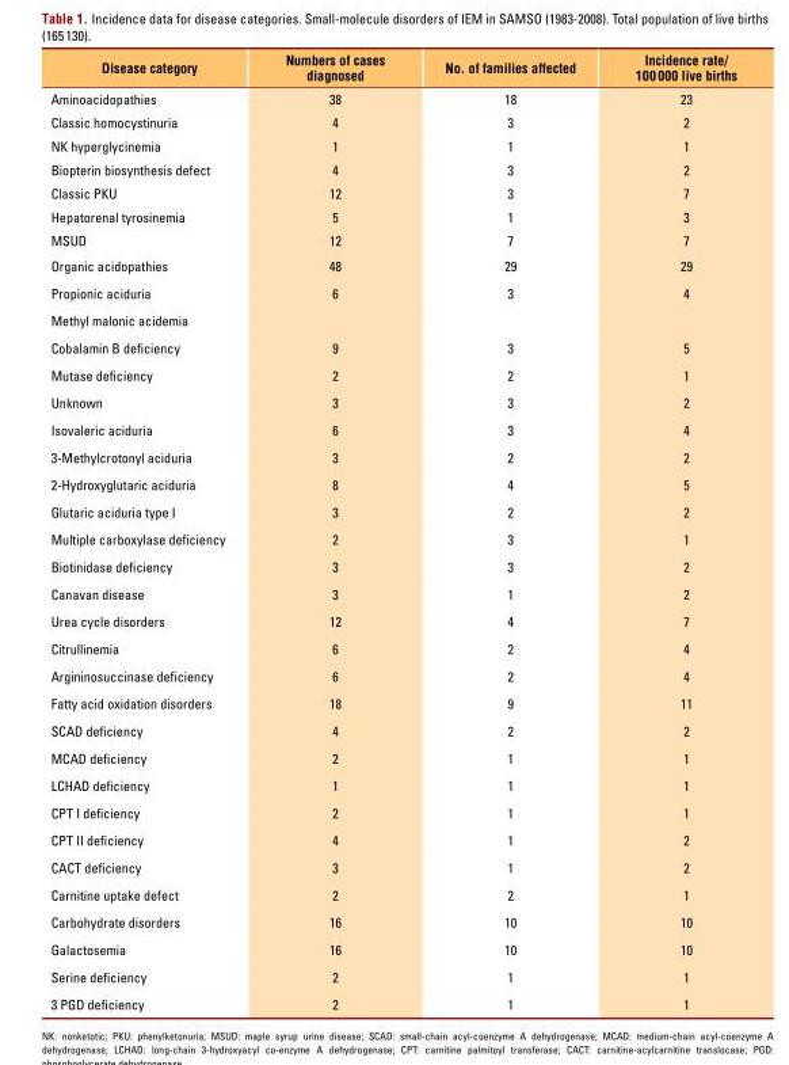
<table><thead><tr><td>Disease category</td><td>Numbers of cases diagnosed</td><td>No. of families affected</td><td>Incidence rate/ 100 000 live births</td></tr></thead><tbody><tr><td>Aminoacidopathies</td><td>38</td><td>18</td><td>23</td></tr><tr><td>Classic homocystinuria</td><td>4</td><td>3</td><td>2</td></tr><tr><td>NK hyperglycinemia</td><td>1</td><td>1</td><td>1</td></tr><tr><td>Biopterin biosynthesis defect</td><td>4</td><td>3</td><td>2</td></tr><tr><td>Classic PKU</td><td>12</td><td>3</td><td>7</td></tr><tr><td>Hepatorenal tyrosinemia</td><td>5</td><td>1</td><td>3</td></tr><tr><td>MSUD</td><td>12</td><td>7</td><td>7</td></tr><tr><td>Organic acidopathies</td><td>48</td><td>29</td><td>29</td></tr><tr><td>Propionic aciduria</td><td>6</td><td>3</td><td>4</td></tr><tr><td colspan="4">Methyl malonic acidemia</td></tr><tr><td>Cobalamin B deficiency</td><td>9</td><td>3</td><td>5</td></tr><tr><td>Mutase deficiency</td><td>2</td><td>2</td><td>1</td></tr><tr><td>Unknown</td><td>3</td><td>3</td><td>2</td></tr><tr><td>Isovaleric aciduria</td><td>6</td><td>3</td><td>4</td></tr><tr><td>3-Methylcrotonyl aciduria</td><td>3</td><td>2</td><td>2</td></tr><tr><td>2-Hydroxyglutaric aciduria</td><td>8</td><td>4</td><td>5</td></tr><tr><td>Glutaric aciduria type I</td><td>3</td><td>2</td><td>2</td></tr><tr><td>Multiple carboxylase deficiency</td><td>2</td><td>3</td><td>1</td></tr><tr><td>Biotinidase deficiency</td><td>3</td><td>3</td><td>2</td></tr><tr><td>Canavan disease</td><td>3</td><td>1</td><td>2</td></tr><tr><td>Urea cycle disorders</td><td>12</td><td>4</td><td>7</td></tr><tr><td>Citrullinemia</td><td>6</td><td>2</td><td>4</td></tr><tr><td>Argininosuccinase deficiency</td><td>6</td><td>2</td><td>4</td></tr><tr><td>Fatty acid oxidation disorders</td><td>18</td><td>9</td><td>11</td></tr><tr><td>SCAD deficiency</td><td>4</td><td>2</td><td>2</td></tr><tr><td>MCAD deficiency</td><td>2</td><td>1</td><td>1</td></tr><tr><td>LCHAD deficiency</td><td>1</td><td>1</td><td>1</td></tr><tr><td>CPT I deficiency</td><td>2</td><td>1</td><td>1</td></tr><tr><td>CPT II deficiency</td><td>4</td><td>1</td><td>2</td></tr><tr><td>CACT deficiency</td><td>3</td><td>1</td><td>2</td></tr><tr><td>Carnitine uptake defect</td><td>2</td><td>2</td><td>1</td></tr><tr><td>Carbohydrate disorders</td><td>16</td><td>10</td><td>10</td></tr><tr><td>Galactosemia</td><td>16</td><td>10</td><td>10</td></tr><tr><td>Serine deficiency</td><td>2</td><td>1</td><td>1</td></tr><tr><td>3 PGD deficiency</td><td>2</td><td>1</td><td>1</td></tr></tbody></table>